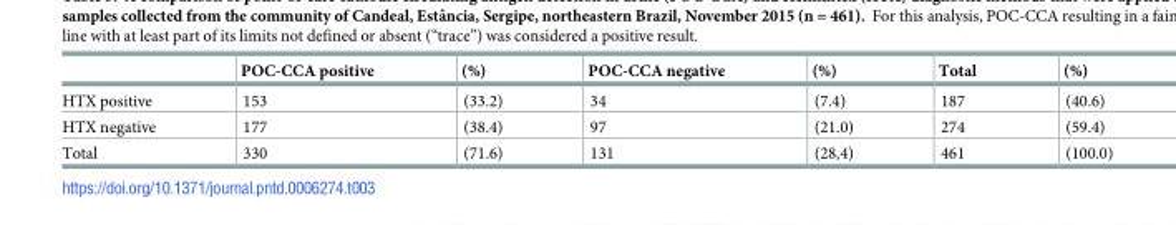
<table><thead><tr><td></td><td>POC-CCA positive</td><td>(%)</td><td>POC-CCA negative</td><td>(%)</td><td>Total</td><td>(%)</td></tr></thead><tbody><tr><td>HTX positive</td><td>153</td><td>(33.2)</td><td>34</td><td>(7.4)</td><td>187</td><td>(40.6)</td></tr><tr><td>HTX negative</td><td>177</td><td>(38.4)</td><td>97</td><td>(21.0)</td><td>274</td><td>(59.4)</td></tr><tr><td>Total</td><td>330</td><td>(71.6)</td><td>131</td><td>(28,4)</td><td>461</td><td>(100.0)</td></tr></tbody></table>